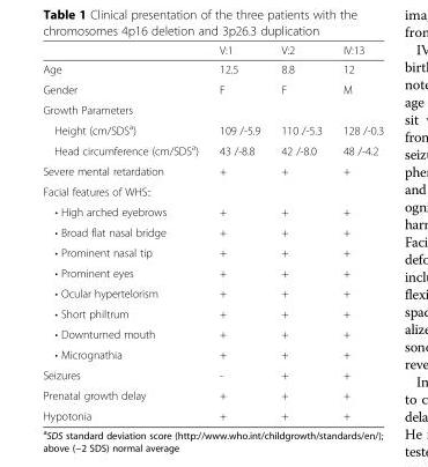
<table><thead><tr><td></td><td>V:1</td><td>V:2</td><td>IV:13</td></tr></thead><tbody><tr><td>Age</td><td>12.5</td><td>8.8</td><td>12</td></tr><tr><td>Gender</td><td rowspan="2">F</td><td rowspan="2">F</td><td rowspan="2">M</td></tr><tr><td>Growth Parameters</td></tr><tr><td>Height (cm/SDS<sup>a</sup>)</td><td>109 /-5.9</td><td>110 /-5.3</td><td>128 /-0.3</td></tr><tr><td>Head circumference (cm/SDS<sup>a</sup>)</td><td>43 /-8.8</td><td>42 /-8.0</td><td>48 /-4.2</td></tr><tr><td>Severe mental retardation</td><td>+</td><td>+</td><td>+</td></tr><tr><td colspan="4">Facial features of WHS::</td></tr><tr><td>• High arched eyebrows</td><td>+</td><td>+</td><td>+</td></tr><tr><td>• Broad flat nasal bridge</td><td>+</td><td>+</td><td>+</td></tr><tr><td>• Prominent nasal tip</td><td>+</td><td>+</td><td>+</td></tr><tr><td>• Prominent eyes</td><td>+</td><td>+</td><td>+</td></tr><tr><td>• Ocular hypertelorism</td><td>+</td><td>+</td><td>+</td></tr><tr><td>• Short philtrum</td><td>+</td><td>+</td><td>+</td></tr><tr><td>• Downturned mouth</td><td>+</td><td>+</td><td>+</td></tr><tr><td>• Micrognathia</td><td>+</td><td>+</td><td>+</td></tr><tr><td>Seizures</td><td>-</td><td>+</td><td>+</td></tr><tr><td>Prenatal growth delay</td><td>+</td><td>+</td><td>+</td></tr><tr><td>Hypotonia</td><td>+</td><td>+</td><td>+</td></tr></tbody></table>